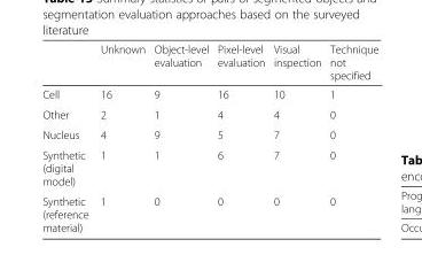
<table><thead><tr><td></td><td>Unknown</td><td>Object-level evaluation</td><td>Pixel-level evaluation</td><td>Visual inspection</td><td>Technique not specified</td></tr></thead><tbody><tr><td>Cell</td><td>16</td><td>9</td><td>16</td><td>10</td><td>1</td></tr><tr><td>Other</td><td>2</td><td>1</td><td>4</td><td>4</td><td>0</td></tr><tr><td>Nucleus</td><td>4</td><td>9</td><td>5</td><td>7</td><td>0</td></tr><tr><td>Synthetic (digital model)</td><td>1</td><td>1</td><td>6</td><td>7</td><td>0</td></tr><tr><td>Synthetic (reference material)</td><td>1</td><td>0</td><td>0</td><td>0</td><td>0</td></tr></tbody></table>